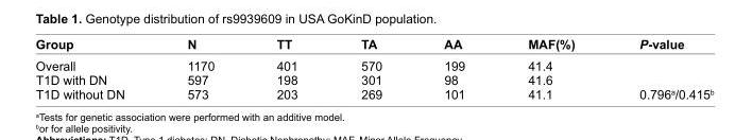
<table><thead><tr><td>Group</td><td>n</td><td>TT</td><td>TA</td><td>AA</td><td>MAF(%)</td><td>P-value</td></tr></thead><tbody><tr><td>Overall</td><td>1170</td><td>401</td><td>570</td><td>199</td><td>41.4</td><td></td></tr><tr><td>T1D with Dn</td><td>597</td><td>198</td><td>301</td><td>98</td><td>41.6</td><td></td></tr><tr><td>T1D without Dn</td><td>573</td><td>203</td><td>269</td><td>101</td><td>41.1</td><td>0.796<sup>a</sup>/0.415<sup>b</sup></td></tr></tbody></table>